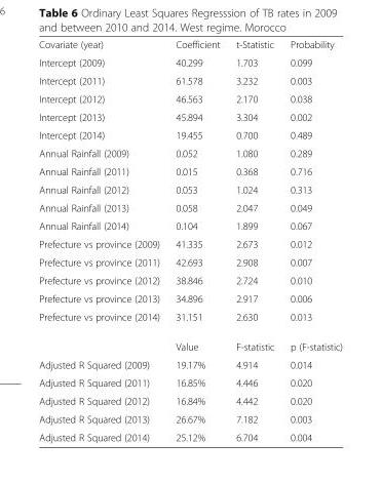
<table><tbody><tr><td>Covariate (year)</td><td>Coefficient</td><td>t-Statistic</td><td>Probability</td></tr><tr><td>Intercept (2009)</td><td>40.299</td><td>1.703</td><td>0.099</td></tr><tr><td>Intercept (2011)</td><td>61.578</td><td>3.232</td><td>0.003</td></tr><tr><td>Intercept (2012)</td><td>46.563</td><td>2.170</td><td>0.038</td></tr><tr><td>Intercept (2013)</td><td>45.894</td><td>3.304</td><td>0.002</td></tr><tr><td>Intercept (2014)</td><td>19.455</td><td>0.700</td><td>0.489</td></tr><tr><td>Annual Rainfall (2009)</td><td>0.052</td><td>1.080</td><td>0.289</td></tr><tr><td>Annual Rainfall (2011)</td><td>0.015</td><td>0.368</td><td>0.716</td></tr><tr><td>Annual Rainfall (2012)</td><td>0.053</td><td>1.024</td><td>0.313</td></tr><tr><td>Annual Rainfall (2013)</td><td>0.058</td><td>2.047</td><td>0.049</td></tr><tr><td>Annual Rainfall (2014)</td><td>0.104</td><td>1.899</td><td>0.067</td></tr><tr><td>Prefecture vs province (2009)</td><td>41.335</td><td>2.673</td><td>0.012</td></tr><tr><td>Prefecture vs province (2011)</td><td>42.693</td><td>2.908</td><td>0.007</td></tr><tr><td>Prefecture vs province (2012)</td><td>38.846</td><td>2.724</td><td>0.010</td></tr><tr><td>Prefecture vs province (2013)</td><td>34.896</td><td>2.917</td><td>0.006</td></tr><tr><td rowspan="2">Prefecture vs province (2014)</td><td>31.151</td><td>2.630</td><td>0.013</td></tr><tr><td>Value</td><td>F-statistic</td><td>p (F-statistic)</td></tr><tr><td>Adjusted R Squared (2009)</td><td>19.17%</td><td>4.914</td><td>0.014</td></tr><tr><td>Adjusted R Squared (2011)</td><td>16.85%</td><td>4.446</td><td>0.020</td></tr><tr><td>Adjusted R Squared (2012)</td><td>16.84%</td><td>4.442</td><td>0.020</td></tr><tr><td>Adjusted R Squared (2013)</td><td>26.67%</td><td>7.182</td><td>0.003</td></tr><tr><td>Adjusted R Squared (2014)</td><td>25.12%</td><td>6.704</td><td>0.004</td></tr></tbody></table>